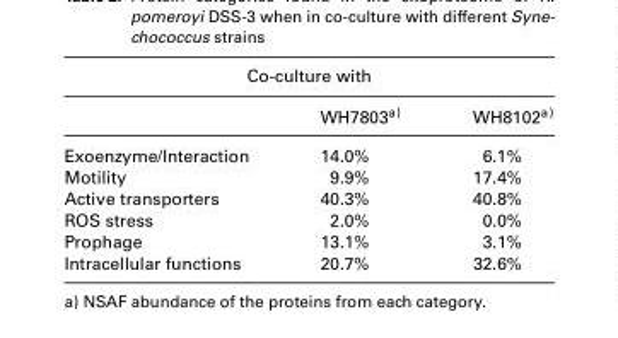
<table><thead><tr><td colspan="3">Co-culture with</td></tr><tr><td></td><td>WH7803<sup>a)</sup></td><td>WH8102<sup>a)</sup></td></tr></thead><tbody><tr><td>Exoenzyme/Interaction</td><td>14.0%</td><td>6.1%</td></tr><tr><td>Motility</td><td>9.9%</td><td>17.4%</td></tr><tr><td>Active transporters</td><td>40.3%</td><td>40.8%</td></tr><tr><td>ROS stress</td><td>2.0%</td><td>0.0%</td></tr><tr><td>Prophage</td><td>13.1%</td><td>3.1%</td></tr><tr><td>Intracellular functions</td><td>20.7%</td><td>32.6%</td></tr></tbody></table>